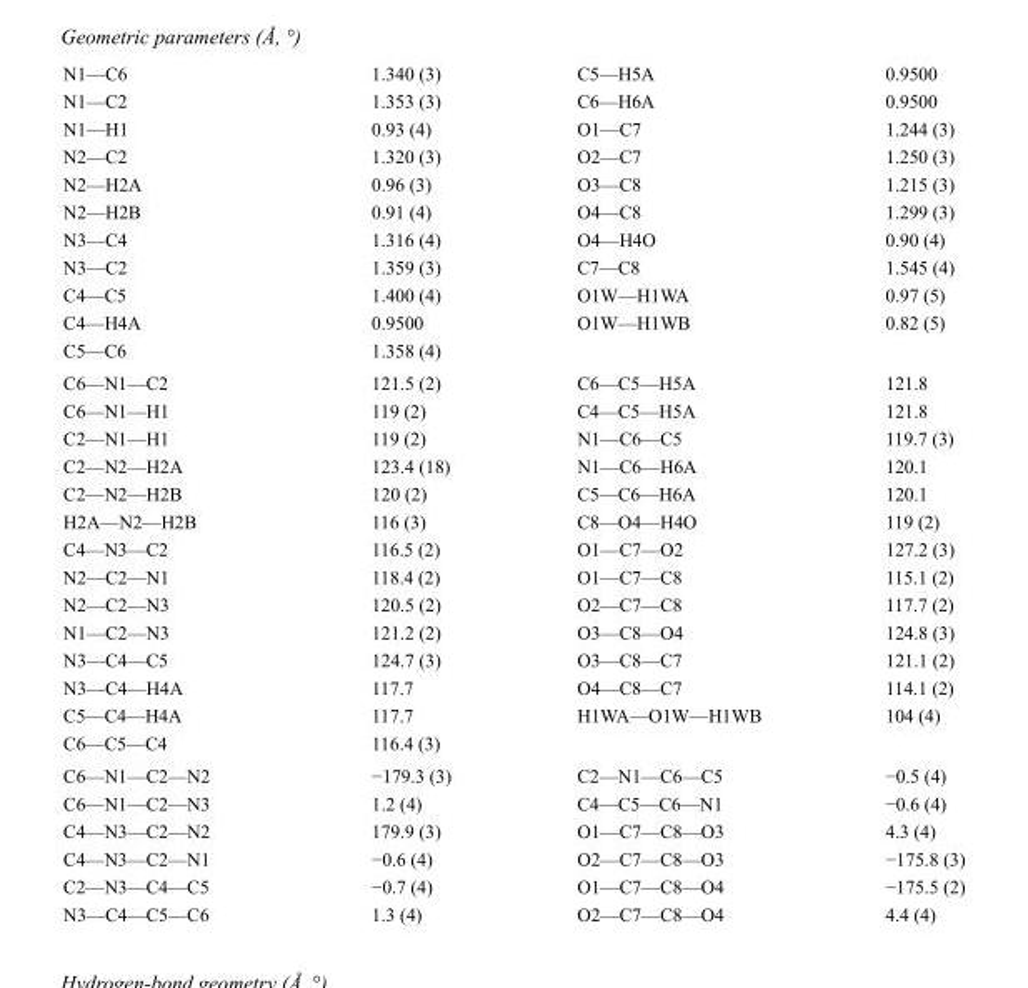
<table><tbody><tr><td>N1—C6</td><td>1.340 (3)</td><td>C5—H5A</td><td>0.9500</td></tr><tr><td>N1—C2</td><td>1.353 (3)</td><td>C6—H6A</td><td>0.9500</td></tr><tr><td>N1—H1</td><td>0.93 (4)</td><td>O1—C7</td><td>1.244 (3)</td></tr><tr><td>N2—C2</td><td>1.320 (3)</td><td>O2—C7</td><td>1.250 (3)</td></tr><tr><td>N2—H2A</td><td>0.96 (3)</td><td>O3—C8</td><td>1.215 (3)</td></tr><tr><td>N2—H2B</td><td>0.91 (4)</td><td>O4—C8</td><td>1.299 (3)</td></tr><tr><td>N3—C4</td><td>1.316 (4)</td><td>O4—H4O</td><td>0.90 (4)</td></tr><tr><td>N3—C2</td><td>1.359 (3)</td><td>C7—C8</td><td>1.545 (4)</td></tr><tr><td>C4—C5</td><td>1.400 (4)</td><td>O1W—H1WA</td><td>0.97 (5)</td></tr><tr><td>C4—H4A</td><td>0.9500</td><td>O1W—H1WB</td><td>0.82 (5)</td></tr><tr><td>C5—C6</td><td>1.358 (4)</td><td></td><td></td></tr><tr><td>C6—N1—C2</td><td>121.5 (2)</td><td>C6—C5—H5A</td><td>121.8</td></tr><tr><td>C6—N1—H1</td><td>119 (2)</td><td>C4—C5—H5A</td><td>121.8</td></tr><tr><td>C2—N1—H1</td><td>119 (2)</td><td>N1—C6—C5</td><td>119.7 (3)</td></tr><tr><td>C2—N2—H2A</td><td>123.4 (18)</td><td>N1—C6—H6A</td><td>120.1</td></tr><tr><td>C2—N2—H2B</td><td>120 (2)</td><td>C5—C6—H6A</td><td>120.1</td></tr><tr><td>H2A—N2—H2B</td><td>116 (3)</td><td>C8—O4—H4O</td><td>119 (2)</td></tr><tr><td>C4—N3—C2</td><td>116.5 (2)</td><td>O1—C7—O2</td><td>127.2 (3)</td></tr><tr><td>N2—C2—N1</td><td>118.4 (2)</td><td>O1—C7—C8</td><td>115.1 (2)</td></tr><tr><td>N2—C2—N3</td><td>120.5 (2)</td><td>O2—C7—C8</td><td>117.7 (2)</td></tr><tr><td>N1—C2—N3</td><td>121.2 (2)</td><td>O3—C8—O4</td><td>124.8 (3)</td></tr><tr><td>N3—C4—C5</td><td>124.7 (3)</td><td>O3—C8—C7</td><td>121.1 (2)</td></tr><tr><td>N3—C4—H4A</td><td>117.7</td><td>O4—C8—C7</td><td>114.1 (2)</td></tr><tr><td>C5—C4—H4A</td><td>117.7</td><td>H1WA—O1W—H1WB</td><td>104 (4)</td></tr><tr><td>C6—C5—C4</td><td>116.4 (3)</td><td></td><td></td></tr><tr><td>C6—N1—C2—N2</td><td>−179.3 (3)</td><td>C2—N1—C6—C5</td><td>−0.5 (4)</td></tr><tr><td>C6—N1—C2—N3</td><td>1.2 (4)</td><td>C4—C5—C6—N1</td><td>−0.6 (4)</td></tr><tr><td>C4—N3—C2—N2</td><td>179.9 (3)</td><td>O1—C7—C8—O3</td><td>4.3 (4)</td></tr><tr><td>C4—N3—C2—N1</td><td>−0.6 (4)</td><td>O2—C7—C8—O3</td><td>−175.8 (3)</td></tr><tr><td>C2—N3—C4—C5</td><td>−0.7 (4)</td><td>O1—C7—C8—O4</td><td>−175.5 (2)</td></tr><tr><td>N3—C4—C5—C6</td><td>1.3 (4)</td><td>O2—C7—C8—O4</td><td>4.4 (4)</td></tr></tbody></table>